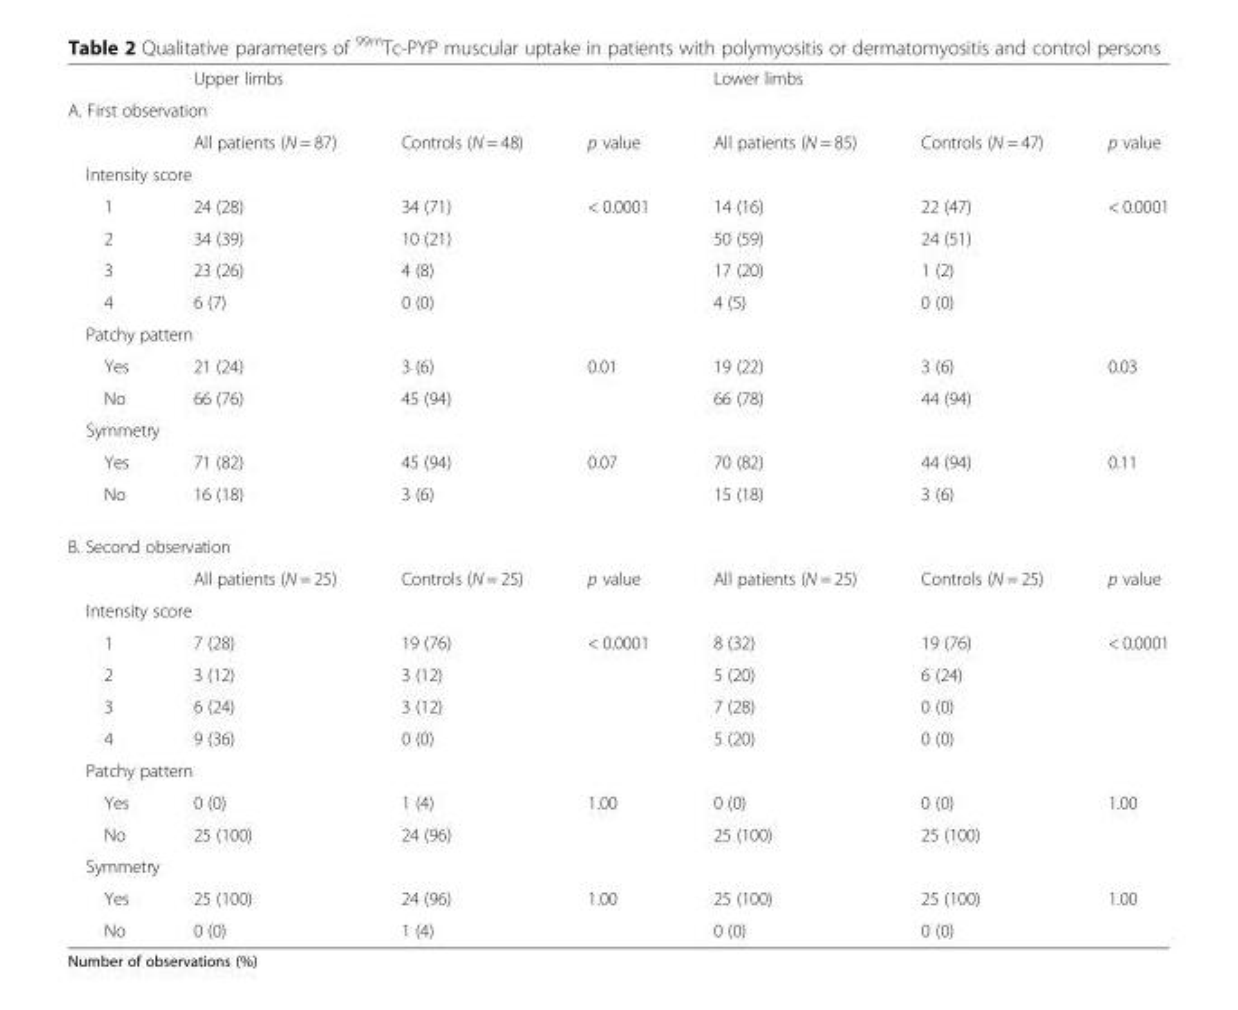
<table><thead><tr><td></td><td colspan="2">Upper limbs</td><td></td><td colspan="2">Lower limbs</td><td></td></tr><tr><td colspan="7">A. First observation</td></tr><tr><td></td><td>All patients (N = 87)</td><td>Controls (N = 48)</td><td>p value</td><td>All patients (N = 85)</td><td>Controls (N = 47)</td><td>p value</td></tr></thead><tbody><tr><td colspan="7">Intensity score</td></tr><tr><td>1</td><td>24 (28)</td><td>34 (71)</td><td rowspan="4">&lt; 0.0001</td><td>14 (16)</td><td>22 (47)</td><td rowspan="4">&lt; 0.0001</td></tr><tr><td>2</td><td>34 (39)</td><td>10 (21)</td><td>50 (59)</td><td>24 (51)</td></tr><tr><td>3</td><td>23 (26)</td><td>4 (8)</td><td>17 (20)</td><td>1 (2)</td></tr><tr><td>4</td><td>6 (7)</td><td>0 (0)</td><td>4 (5)</td><td>0 (0)</td></tr><tr><td colspan="7">Patchy pattern</td></tr><tr><td>Yes</td><td>21 (24)</td><td>3 (6)</td><td rowspan="2">0.01</td><td>19 (22)</td><td>3 (6)</td><td rowspan="2">0.03</td></tr><tr><td>No</td><td>66 (76)</td><td>45 (94)</td><td>66 (78)</td><td>44 (94)</td></tr><tr><td colspan="7">Symmetry</td></tr><tr><td>Yes</td><td>71 (82)</td><td>45 (94)</td><td rowspan="2">0.07</td><td>70 (82)</td><td>44 (94)</td><td rowspan="2">0.11</td></tr><tr><td>No</td><td>16 (18)</td><td>3 (6)</td><td>15 (18)</td><td>3 (6)</td></tr><tr><td colspan="7">B. Second observation</td></tr><tr><td></td><td>All patients (N = 25)</td><td>Controls (N = 25)</td><td>p value</td><td>All patients (N = 25)</td><td>Controls (N = 25)</td><td>p value</td></tr><tr><td colspan="7">Intensity score</td></tr><tr><td>1</td><td>7 (28)</td><td>19 (76)</td><td rowspan="4">&lt; 0.0001</td><td>8 (32)</td><td>19 (76)</td><td rowspan="4">&lt; 0.0001</td></tr><tr><td>2</td><td>3 (12)</td><td>3 (12)</td><td>5 (20)</td><td>6 (24)</td></tr><tr><td>3</td><td>6 (24)</td><td>3 (12)</td><td>7 (28)</td><td>0 (0)</td></tr><tr><td>4</td><td>9 (36)</td><td>0 (0)</td><td>5 (20)</td><td>0 (0)</td></tr><tr><td colspan="7">Patchy pattern</td></tr><tr><td>Yes</td><td>0 (0)</td><td>1 (4)</td><td rowspan="2">1.00</td><td>0 (0)</td><td>0 (0)</td><td rowspan="2">1.00</td></tr><tr><td>No</td><td>25 (100)</td><td>24 (96)</td><td>25 (100)</td><td>25 (100)</td></tr><tr><td colspan="7">Symmetry</td></tr><tr><td>Yes</td><td>25 (100)</td><td>24 (96)</td><td rowspan="2">1.00</td><td>25 (100)</td><td>25 (100)</td><td rowspan="2">1.00</td></tr><tr><td>No</td><td>0 (0)</td><td>1 (4)</td><td>0 (0)</td><td>0 (0)</td></tr></tbody></table>